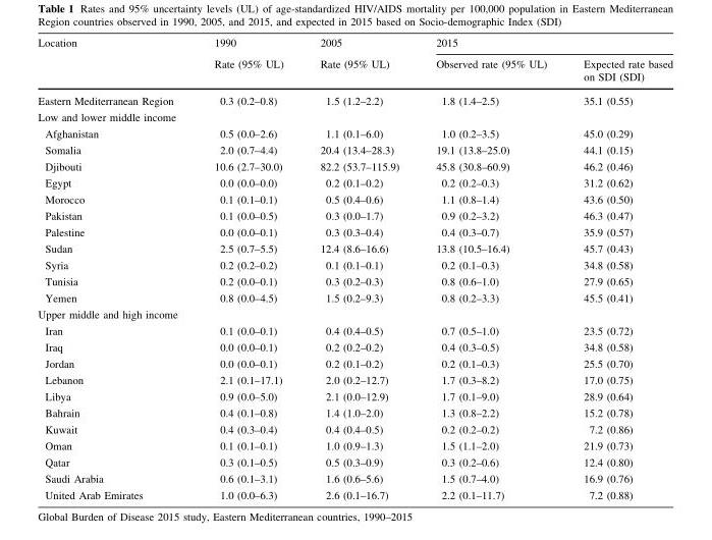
<table><thead><tr><td rowspan="2">Location</td><td rowspan="2">1990 Rate (95% UL)</td><td rowspan="2">2005 Rate (95% UL)</td><td colspan="2">2015</td></tr><tr><td>Observed rate (95% UL)</td><td>Expected rate based on SDI (SDI)</td></tr></thead><tbody><tr><td>Eastern Mediterranean Region</td><td>0.3 (0.2–0.8)</td><td>1.5 (1.2–2.2)</td><td>1.8 (1.4–2.5)</td><td>35.1 (0.55)</td></tr><tr><td colspan="5">Low and lower middle income</td></tr><tr><td>Afghanistan</td><td>0.5 (0.0–2.6)</td><td>1.1 (0.1–6.0)</td><td>1.0 (0.2–3.5)</td><td>45.0 (0.29)</td></tr><tr><td>Somalia</td><td>2.0 (0.7–4.4)</td><td>20.4 (13.4–28.3)</td><td>19.1 (13.8–25.0)</td><td>44.1 (0.15)</td></tr><tr><td>Djibouti</td><td>10.6 (2.7–30.0)</td><td>82.2 (53.7–115.9)</td><td>45.8 (30.8–60.9)</td><td>46.2 (0.46)</td></tr><tr><td>Egypt</td><td>0.0 (0.0–0.0)</td><td>0.2 (0.1–0.2)</td><td>0.2 (0.2–0.3)</td><td>31.2 (0.62)</td></tr><tr><td>Morocco</td><td>0.1 (0.1–0.1)</td><td>0.5 (0.4–0.6)</td><td>1.1 (0.8–1.4)</td><td>43.6 (0.50)</td></tr><tr><td>Pakistan</td><td>0.1 (0.0–0.5)</td><td>0.3 (0.0–1.7)</td><td>0.9 (0.2–3.2)</td><td>46.3 (0.47)</td></tr><tr><td>Palestine</td><td>0.0 (0.0–0.1)</td><td>0.3 (0.3–0.4)</td><td>0.4 (0.3–0.7)</td><td>35.9 (0.57)</td></tr><tr><td>Sudan</td><td>2.5 (0.7–5.5)</td><td>12.4 (8.6–16.6)</td><td>13.8 (10.5–16.4)</td><td>45.7 (0.43)</td></tr><tr><td>Syria</td><td>0.2 (0.2–0.2)</td><td>0.1 (0.1–0.1)</td><td>0.2 (0.1–0.3)</td><td>34.8 (0.58)</td></tr><tr><td>Tunisia</td><td>0.2 (0.0–0.1)</td><td>0.3 (0.2–0.3)</td><td>0.8 (0.6–1.0)</td><td>27.9 (0.65)</td></tr><tr><td>Yemen</td><td>0.8 (0.0–4.5)</td><td>1.5 (0.2–9.3)</td><td>0.8 (0.2–3.3)</td><td>45.5 (0.41)</td></tr><tr><td colspan="5">Upper middle and high income</td></tr><tr><td>Iran</td><td>0.1 (0.0–0.1)</td><td>0.4 (0.4–0.5)</td><td>0.7 (0.5–1.0)</td><td>23.5 (0.72)</td></tr><tr><td>Iraq</td><td>0.0 (0.0–0.1)</td><td>0.2 (0.2–0.2)</td><td>0.4 (0.3–0.5)</td><td>34.8 (0.58)</td></tr><tr><td>Jordan</td><td>0.0 (0.0–0.1)</td><td>0.2 (0.1–0.2)</td><td>0.2 (0.1–0.3)</td><td>25.5 (0.70)</td></tr><tr><td>Lebanon</td><td>2.1 (0.1–17.1)</td><td>2.0 (0.2–12.7)</td><td>1.7 (0.3–8.2)</td><td>17.0 (0.75)</td></tr><tr><td>Libya</td><td>0.9 (0.0–5.0)</td><td>2.1 (0.0–12.9)</td><td>1.7 (0.1–9.0)</td><td>28.9 (0.64)</td></tr><tr><td>Bahrain</td><td>0.4 (0.1–0.8)</td><td>1.4 (1.0–2.0)</td><td>1.3 (0.8–2.2)</td><td>15.2 (0.78)</td></tr><tr><td>Kuwait</td><td>0.4 (0.3–0.4)</td><td>0.4 (0.4–0.5)</td><td>0.2 (0.2–0.2)</td><td>7.2 (0.86)</td></tr><tr><td>Oman</td><td>0.1 (0.1–0.1)</td><td>1.0 (0.9–1.3)</td><td>1.5 (1.1–2.0)</td><td>21.9 (0.73)</td></tr><tr><td>Qatar</td><td>0.3 (0.1–0.5)</td><td>0.5 (0.3–0.9)</td><td>0.3 (0.2–0.6)</td><td>12.4 (0.80)</td></tr><tr><td>Saudi Arabia</td><td>0.6 (0.1–3.1)</td><td>1.6 (0.6–5.6)</td><td>1.5 (0.7–4.0)</td><td>16.9 (0.76)</td></tr><tr><td>United Arab Emirates</td><td>1.0 (0.0–6.3)</td><td>2.6 (0.1–16.7)</td><td>2.2 (0.1–11.7)</td><td>7.2 (0.88)</td></tr></tbody></table>